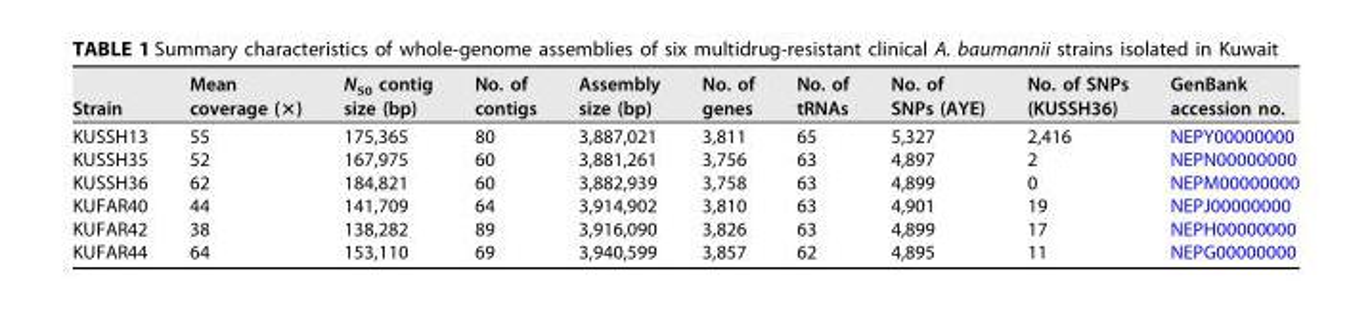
<table><thead><tr><td>Strain</td><td>Mean coverage (×)</td><td>N<sub>50</sub> contig size (bp)</td><td>No. of contigs</td><td>Assembly size (bp)</td><td>No. of genes</td><td>No. of tRNAs</td><td>No. of SNPs (AYE)</td><td>No. of SNPs (KUSSH36)</td><td>GenBank accession no.</td></tr></thead><tbody><tr><td>KUSSH13</td><td>55</td><td>175,365</td><td>80</td><td>3,887,021</td><td>3,811</td><td>65</td><td>5,327</td><td>2,416</td><td>NEPY00000000</td></tr><tr><td>KUSSH35</td><td>52</td><td>167,975</td><td>60</td><td>3,881,261</td><td>3,756</td><td>63</td><td>4,897</td><td>2</td><td>NEPN00000000</td></tr><tr><td>KUSSH36</td><td>62</td><td>184,821</td><td>60</td><td>3,882,939</td><td>3,758</td><td>63</td><td>4,899</td><td>0</td><td>NEPM00000000</td></tr><tr><td>KUFAR40</td><td>44</td><td>141,709</td><td>64</td><td>3,914,902</td><td>3,810</td><td>63</td><td>4,901</td><td>19</td><td>NEPJ00000000</td></tr><tr><td>KUFAR42</td><td>38</td><td>138,282</td><td>89</td><td>3,916,090</td><td>3,826</td><td>63</td><td>4,899</td><td>17</td><td>NEPH00000000</td></tr><tr><td>KUFAR44</td><td>64</td><td>153,110</td><td>69</td><td>3,940,599</td><td>3,857</td><td>62</td><td>4,895</td><td>11</td><td>NEPG00000000</td></tr></tbody></table>